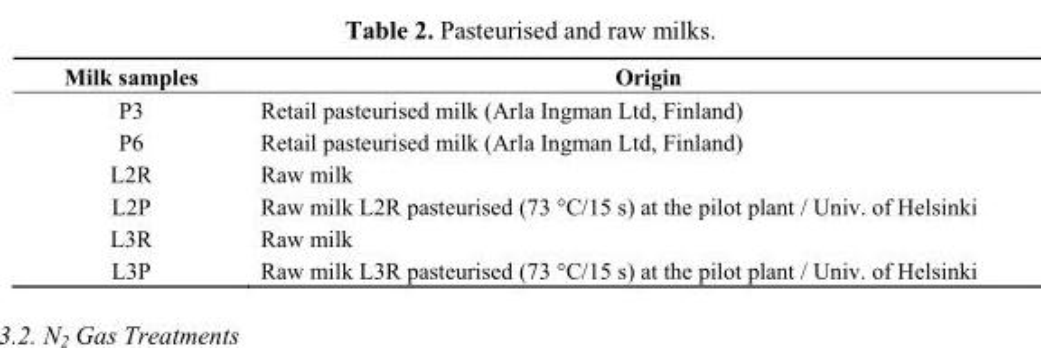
<table><thead><tr><td>Milk samples</td><td>Origin</td></tr></thead><tbody><tr><td>P3</td><td>Retail pasteurised milk (Arla Ingman Ltd, Finland)</td></tr><tr><td>P6</td><td>Retail pasteurised milk (Arla Ingman Ltd, Finland)</td></tr><tr><td>L2R</td><td>Raw milk</td></tr><tr><td>L2P</td><td>Raw milk L2R pasteurised (73 °C/15 s) at the pilot plant / Univ. of Helsinki</td></tr><tr><td>L3R</td><td>Raw milk</td></tr><tr><td>L3P</td><td>Raw milk L3R pasteurised (73 °C/15 s) at the pilot plant / Univ. of Helsinki</td></tr></tbody></table>